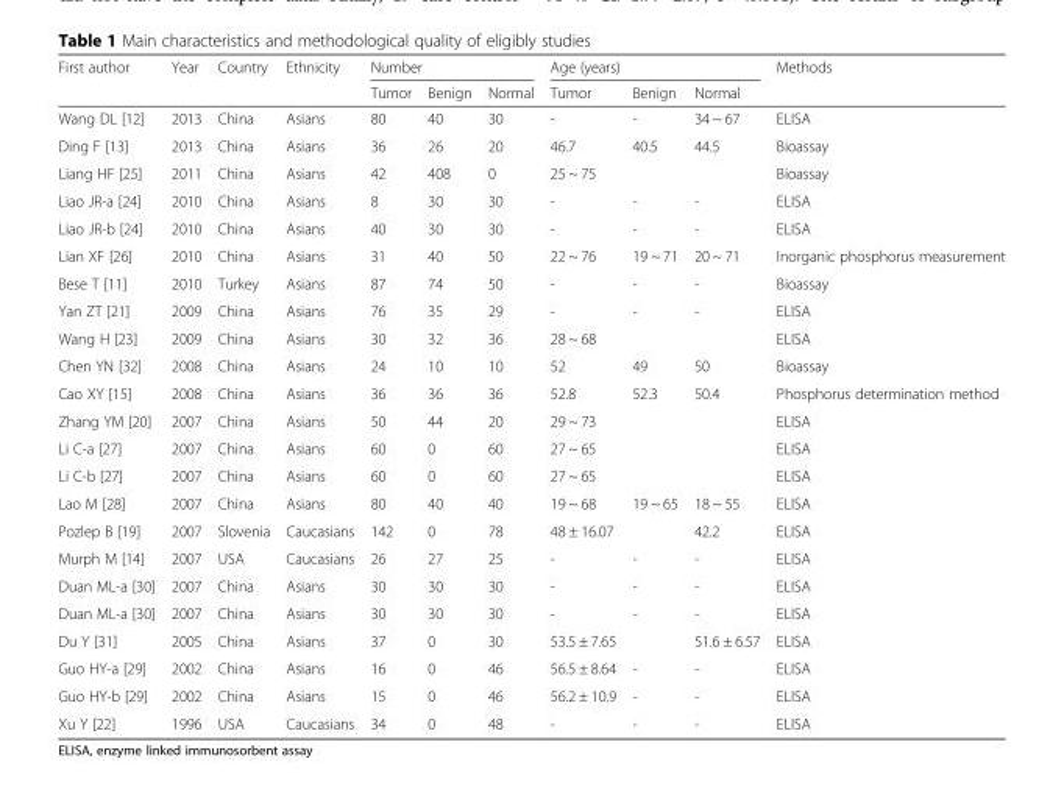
<table><thead><tr><td rowspan="2">First author</td><td rowspan="2">Year</td><td rowspan="2">Country</td><td rowspan="2">Ethnicity</td><td colspan="3">Number</td><td colspan="3">Age (years)</td><td rowspan="2">Methods</td></tr><tr><td>Tumor</td><td>Benign</td><td>Normal</td><td>Tumor</td><td>Benign</td><td>Normal</td></tr></thead><tbody><tr><td>Wang DL [12]</td><td>2013</td><td>China</td><td>Asians</td><td>80</td><td>40</td><td>30</td><td>-</td><td>-</td><td>34 ~ 67</td><td>ELISA</td></tr><tr><td>Ding F [13]</td><td>2013</td><td>China</td><td>Asians</td><td>36</td><td>26</td><td>20</td><td>46.7</td><td>40.5</td><td>44.5</td><td>Bioassay</td></tr><tr><td>Liang HF [25]</td><td>2011</td><td>China</td><td>Asians</td><td>42</td><td>408</td><td>0</td><td colspan="2">25 ~ 75</td><td></td><td>Bioassay</td></tr><tr><td>Liao JR-a [24]</td><td>2010</td><td>China</td><td>Asians</td><td>8</td><td>30</td><td>30</td><td>-</td><td>-</td><td>-</td><td>ELISA</td></tr><tr><td>Liao JR-b [24]</td><td>2010</td><td>China</td><td>Asians</td><td>40</td><td>30</td><td>30</td><td>-</td><td>-</td><td>-</td><td>ELISA</td></tr><tr><td>Lian XF [26]</td><td>2010</td><td>China</td><td>Asians</td><td>31</td><td>40</td><td>50</td><td>22 ~ 76</td><td>19 ~ 71</td><td>20 ~ 71</td><td>Inorganic phosphorus measurement</td></tr><tr><td>Bese T [11]</td><td>2010</td><td>Turkey</td><td>Asians</td><td>87</td><td>74</td><td>50</td><td>-</td><td>-</td><td>-</td><td>Bioassay</td></tr><tr><td>Yan ZT [21]</td><td>2009</td><td>China</td><td>Asians</td><td>76</td><td>35</td><td>29</td><td>-</td><td>-</td><td>-</td><td>ELISA</td></tr><tr><td>Wang H [23]</td><td>2009</td><td>China</td><td>Asians</td><td>30</td><td>32</td><td>36</td><td>28 ~ 68</td><td></td><td></td><td>ELISA</td></tr><tr><td>Chen YN [32]</td><td>2008</td><td>China</td><td>Asians</td><td>24</td><td>10</td><td>10</td><td>52</td><td>49</td><td>50</td><td>Bioassay</td></tr><tr><td>Cao XY [15]</td><td>2008</td><td>China</td><td>Asians</td><td>36</td><td>36</td><td>36</td><td>52.8</td><td>52.3</td><td>50.4</td><td>Phosphorus determination method</td></tr><tr><td>Zhang YM [20]</td><td>2007</td><td>China</td><td>Asians</td><td>50</td><td>44</td><td>20</td><td>29 ~ 73</td><td></td><td></td><td>ELISA</td></tr><tr><td>Li C-a [27]</td><td>2007</td><td>China</td><td>Asians</td><td>60</td><td>0</td><td>60</td><td colspan="3">27 ~ 65</td><td>ELISA</td></tr><tr><td>Li C-b [27]</td><td>2007</td><td>China</td><td>Asians</td><td>60</td><td>0</td><td>60</td><td colspan="3">27 ~ 65</td><td>ELISA</td></tr><tr><td>Lao M [28]</td><td>2007</td><td>China</td><td>Asians</td><td>80</td><td>40</td><td>40</td><td>19 ~ 68</td><td>19 ~ 65</td><td>18 ~ 55</td><td>ELISA</td></tr><tr><td>Pozlep B [19]</td><td>2007</td><td>Slovenia</td><td>Caucasians</td><td>142</td><td>0</td><td>78</td><td>48 ± 16.07</td><td></td><td>42.2</td><td>ELISA</td></tr><tr><td>Murph M [14]</td><td>2007</td><td>USA</td><td>Caucasians</td><td>26</td><td>27</td><td>25</td><td>-</td><td>-</td><td>-</td><td>ELISA</td></tr><tr><td>Duan ML-a [30]</td><td>2007</td><td>China</td><td>Asians</td><td>30</td><td>30</td><td>30</td><td>-</td><td>-</td><td>-</td><td>ELISA</td></tr><tr><td>Duan ML-a [30]</td><td>2007</td><td>China</td><td>Asians</td><td>30</td><td>30</td><td>30</td><td>-</td><td>-</td><td>-</td><td>ELISA</td></tr><tr><td>Du Y [31]</td><td>2005</td><td>China</td><td>Asians</td><td>37</td><td>0</td><td>30</td><td>53.5 ± 7.65</td><td></td><td>51.6 ± 6.57</td><td>ELISA</td></tr><tr><td>Guo HY-a [29]</td><td>2002</td><td>China</td><td>Asians</td><td>16</td><td>0</td><td>46</td><td>56.5 ± 8.64</td><td>-</td><td>-</td><td>ELISA</td></tr><tr><td>Guo HY-b [29]</td><td>2002</td><td>China</td><td>Asians</td><td>15</td><td>0</td><td>46</td><td>56.2 ± 10.9</td><td>-</td><td>-</td><td>ELISA</td></tr><tr><td>Xu Y [22]</td><td>1996</td><td>USA</td><td>Caucasians</td><td>34</td><td>0</td><td>48</td><td>-</td><td>-</td><td>-</td><td>ELISA</td></tr></tbody></table>